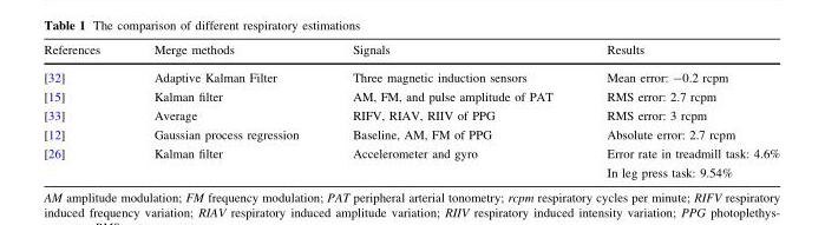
<table><thead><tr><td>References</td><td>Merge methods</td><td>Signals</td><td>Results</td></tr></thead><tbody><tr><td>[32]</td><td>Adaptive Kalman Filter</td><td>Three magnetic induction sensors</td><td>Mean error: -0.2 rcpm</td></tr><tr><td>[15]</td><td>Kalman filter</td><td>AM, FM, and pulse amplitude of PAT</td><td>RMS error: 2.7 rcpm</td></tr><tr><td>[33]</td><td>Average</td><td>RIFV, RIAV, RIIV of PPG</td><td>RMS error: 3 rcpm</td></tr><tr><td>[12]</td><td>Gaussian process regression</td><td>Baseline, AM, FM of PPG</td><td>Absolute error: 2.7 rcpm</td></tr><tr><td>[26]</td><td>Kalman filter</td><td>Accelerometer and gyro</td><td>Error rate in treadmill task: 4.6% In leg press task: 9.54%</td></tr></tbody></table>